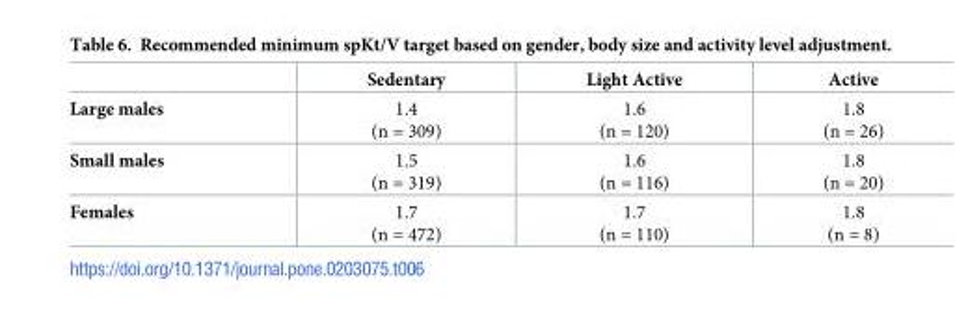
<table><thead><tr><td></td><td>Sedentary</td><td>Light Active</td><td>Active</td></tr></thead><tbody><tr><td>Large males</td><td>1.4 (n = 309)</td><td>1.6 (n = 120)</td><td>1.8 (n = 26)</td></tr><tr><td>Small males</td><td>1.5 (n = 319)</td><td>1.6 (n = 116)</td><td>1.8 (n = 20)</td></tr><tr><td>Females</td><td>1.7 (n = 472)</td><td>1.7 (n = 110)</td><td>1.8 (n = 8)</td></tr></tbody></table>